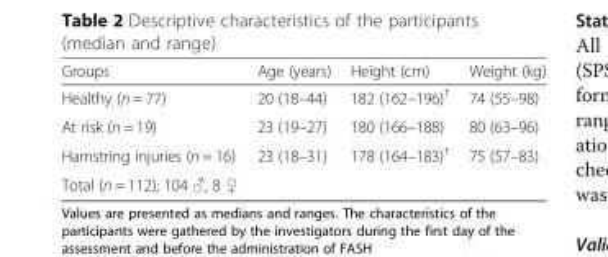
<table><thead><tr><td>Groups</td><td>Age (years)</td><td>Height (cm)</td><td>Weight (kg)</td></tr></thead><tbody><tr><td>Healthy (n = 77)</td><td>20 (18–44)</td><td>182 (162–196)<sup>†</sup></td><td>74 (55–98)</td></tr><tr><td>At risk (n = 19)</td><td>23 (19–27)</td><td>180 (166–188)</td><td>80 (63–96)</td></tr><tr><td>Hamstring injuries (n = 16)</td><td>23 (18–31)</td><td>178 (164–183)<sup>†</sup></td><td>75 (57–83)</td></tr><tr><td>Total (n = 112); 104 ♂, 8 ♀</td><td></td><td></td><td></td></tr></tbody></table>